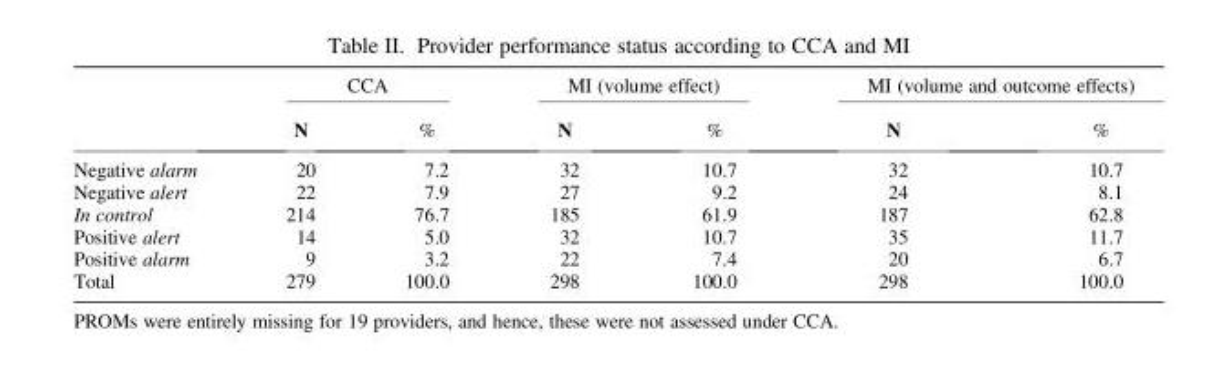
<table><thead><tr><td rowspan="2"></td><td colspan="2">CCA</td><td colspan="2">MI (volume effect)</td><td colspan="2">MI (volume and outcome effects)</td></tr><tr><td>N</td><td>%</td><td>N</td><td>%</td><td>N</td><td>%</td></tr></thead><tbody><tr><td>Negative alarm</td><td>20</td><td>7.2</td><td>32</td><td>10.7</td><td>32</td><td>10.7</td></tr><tr><td>Negative alert</td><td>22</td><td>7.9</td><td>27</td><td>9.2</td><td>24</td><td>8.1</td></tr><tr><td>In control</td><td>214</td><td>76.7</td><td>185</td><td>61.9</td><td>187</td><td>62.8</td></tr><tr><td>Positive alert</td><td>14</td><td>5.0</td><td>32</td><td>10.7</td><td>35</td><td>11.7</td></tr><tr><td>Positive alarm</td><td>9</td><td>3.2</td><td>22</td><td>7.4</td><td>20</td><td>6.7</td></tr><tr><td>Total</td><td>279</td><td>100.0</td><td>298</td><td>100.0</td><td>298</td><td>100.0</td></tr></tbody></table>